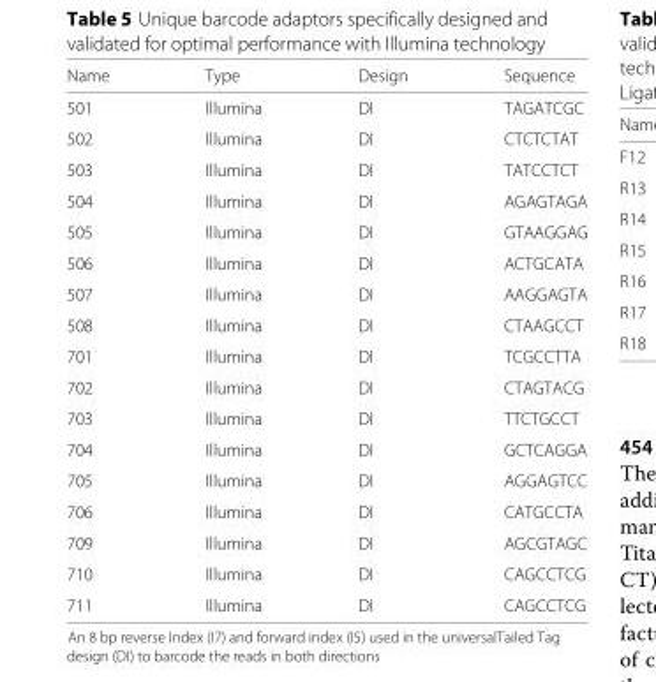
<table><thead><tr><td>Name</td><td>Type</td><td>Design</td><td>Sequence</td></tr></thead><tbody><tr><td>501</td><td>Illumina</td><td>DI</td><td>TAGATCGC</td></tr><tr><td>502</td><td>Illumina</td><td>DI</td><td>CTCTCTAT</td></tr><tr><td>503</td><td>Illumina</td><td>DI</td><td>TATCCTCT</td></tr><tr><td>504</td><td>Illumina</td><td>DI</td><td>AGAGTAGA</td></tr><tr><td>505</td><td>Illumina</td><td>DI</td><td>GTAAGGAG</td></tr><tr><td>506</td><td>Illumina</td><td>DI</td><td>ACTGCATA</td></tr><tr><td>507</td><td>Illumina</td><td>DI</td><td>AAGGAGTA</td></tr><tr><td>508</td><td>Illumina</td><td>DI</td><td>CTAAGCCT</td></tr><tr><td>701</td><td>Illumina</td><td>DI</td><td>TCGCCTTA</td></tr><tr><td>702</td><td>Illumina</td><td>DI</td><td>CTAGTACG</td></tr><tr><td>703</td><td>Illumina</td><td>DI</td><td>TTCTGCCT</td></tr><tr><td>704</td><td>Illumina</td><td>DI</td><td>GCTCAGGA</td></tr><tr><td>705</td><td>Illumina</td><td>DI</td><td>AGGAGTCC</td></tr><tr><td>706</td><td>Illumina</td><td>DI</td><td>CATGCCTA</td></tr><tr><td>709</td><td>Illumina</td><td>DI</td><td>AGCGTAGC</td></tr><tr><td>710</td><td>Illumina</td><td>DI</td><td>CAGCCTCG</td></tr><tr><td>711</td><td>Illumina</td><td>DI</td><td>CAGCCTCG</td></tr></tbody></table>